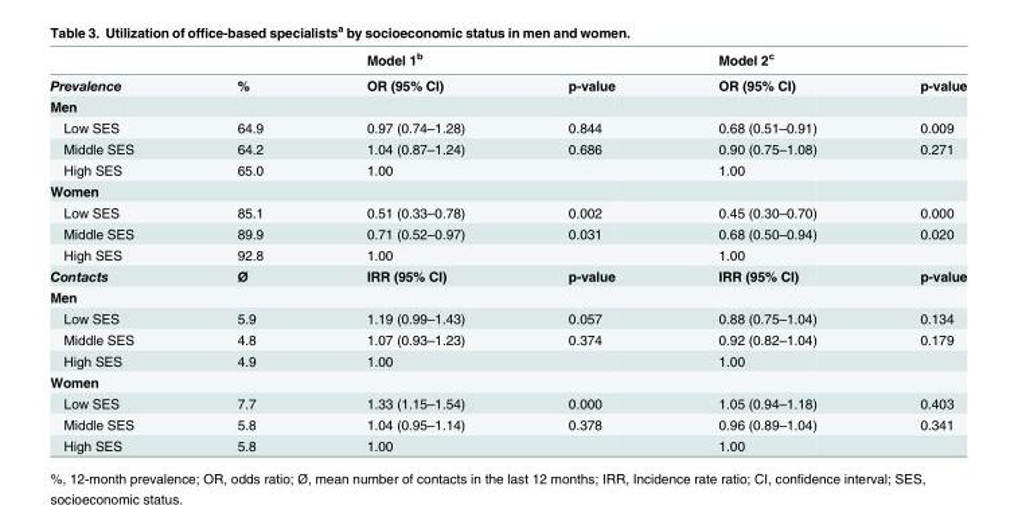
<table><thead><tr><td rowspan="2">Prevalence</td><td rowspan="2">%</td><td colspan="2">Model 1<sup>b</sup></td><td colspan="2">Model 2<sup>c</sup></td></tr><tr><td>OR (95% CI)</td><td>p-value</td><td>OR (95% CI)</td><td>p-value</td></tr></thead><tbody><tr><td colspan="6">Men</td></tr><tr><td>Low SES</td><td>64.9</td><td>0.97 (0.74–1.28)</td><td>0.844</td><td>0.68 (0.51–0.91)</td><td>0.009</td></tr><tr><td>Middle SES</td><td>64.2</td><td>1.04 (0.87–1.24)</td><td>0.686</td><td>0.90 (0.75–1.08)</td><td>0.271</td></tr><tr><td>High SES</td><td>65.0</td><td>1.00</td><td></td><td>1.00</td><td></td></tr><tr><td colspan="6">Women</td></tr><tr><td>Low SES</td><td>85.1</td><td>0.51 (0.33–0.78)</td><td>0.002</td><td>0.45 (0.30–0.70)</td><td>0.000</td></tr><tr><td>Middle SES</td><td>89.9</td><td>0.71 (0.52–0.97)</td><td>0.031</td><td>0.68 (0.50–0.94)</td><td>0.020</td></tr><tr><td>High SES</td><td>92.8</td><td>1.00</td><td></td><td>1.00</td><td></td></tr><tr><td>Contacts</td><td>Ø</td><td>IRR (95% CI)</td><td>p-value</td><td>IRR (95% CI)</td><td>p-value</td></tr><tr><td colspan="6">Men</td></tr><tr><td>Low SES</td><td>5.9</td><td>1.19 (0.99–1.43)</td><td>0.057</td><td>0.88 (0.75–1.04)</td><td>0.134</td></tr><tr><td>Middle SES</td><td>4.8</td><td>1.07 (0.93–1.23)</td><td>0.374</td><td>0.92 (0.82–1.04)</td><td>0.179</td></tr><tr><td>High SES</td><td>4.9</td><td>1.00</td><td></td><td>1.00</td><td></td></tr><tr><td colspan="6">Women</td></tr><tr><td>Low SES</td><td>7.7</td><td>1.33 (1.15–1.54)</td><td>0.000</td><td>1.05 (0.94–1.18)</td><td>0.403</td></tr><tr><td>Middle SES</td><td>5.8</td><td>1.04 (0.95–1.14)</td><td>0.378</td><td>0.96 (0.89–1.04)</td><td>0.341</td></tr><tr><td>High SES</td><td>5.8</td><td>1.00</td><td></td><td>1.00</td><td></td></tr></tbody></table>